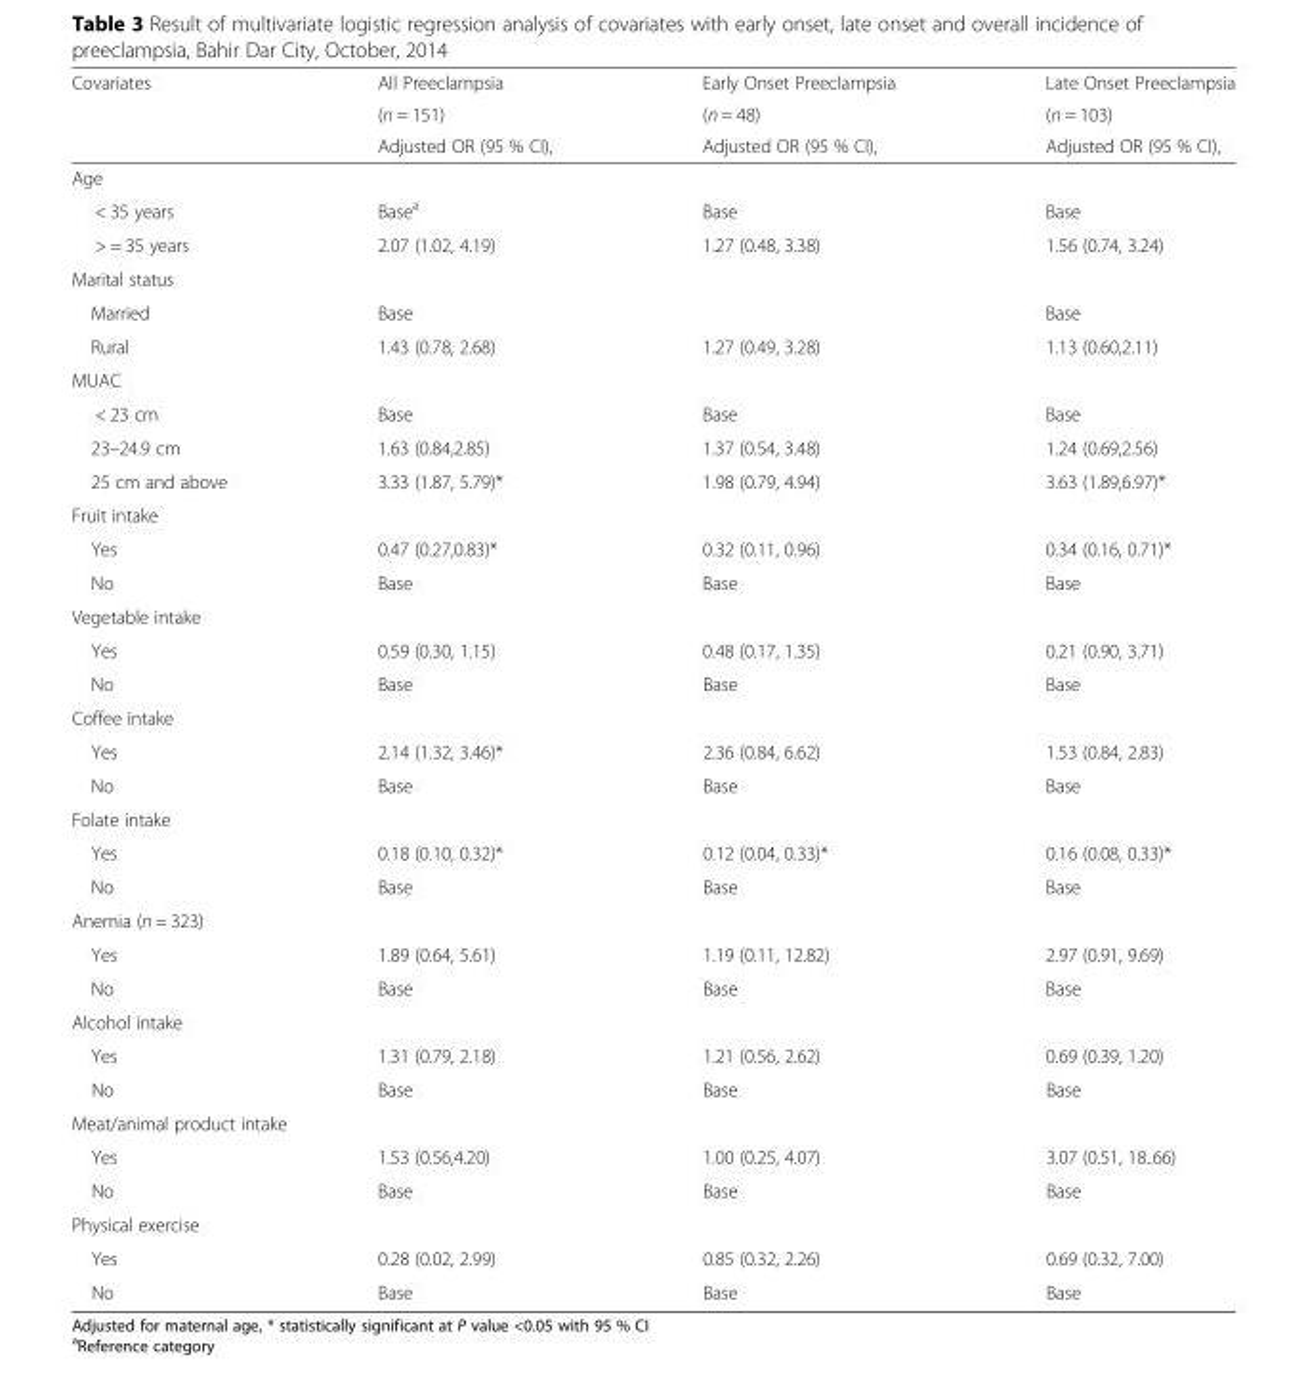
<table><thead><tr><td rowspan="3">Covariates</td><td rowspan="3">All Preeclampsia (n = 151) Adjusted OR (95 % CI),</td><td rowspan="3">Early Onset Preeclampsia (n = 48) Adjusted OR (95 % CI),</td><td rowspan="3">Late Onset Preeclampsia (n = 103) Adjusted OR (95 % CI),</td></tr><tr></tr><tr></tr></thead><tbody><tr><td colspan="4">Age</td></tr><tr><td>&lt; 35 years</td><td>Base<sup>a</sup></td><td>Base</td><td>Base</td></tr><tr><td>&gt; = 35 years</td><td>2.07 (1.02, 4.19)</td><td>1.27 (0.48, 3.38)</td><td>1.56 (0.74, 3.24)</td></tr><tr><td colspan="4">Marital status</td></tr><tr><td>Married</td><td>Base</td><td></td><td>Base</td></tr><tr><td>Rural</td><td>1.43 (0.78, 2.68)</td><td>1.27 (0.49, 3.28)</td><td>1.13 (0.60,2.11)</td></tr><tr><td colspan="4">MUAC</td></tr><tr><td>&lt; 23 cm</td><td>Base</td><td>Base</td><td>Base</td></tr><tr><td>23–24.9 cm</td><td>1.63 (0.84,2.85)</td><td>1.37 (0.54, 3.48)</td><td>1.24 (0.69,2.56)</td></tr><tr><td>25 cm and above</td><td>3.33 (1.87, 5.79)*</td><td>1.98 (0.79, 4.94)</td><td>3.63 (1.89,6.97)*</td></tr><tr><td colspan="4">Fruit intake</td></tr><tr><td>Yes</td><td>0.47 (0.27,0.83)*</td><td>0.32 (0.11, 0.96)</td><td>0.34 (0.16, 0.71)*</td></tr><tr><td>No</td><td>Base</td><td>Base</td><td>Base</td></tr><tr><td colspan="4">Vegetable intake</td></tr><tr><td>Yes</td><td>0.59 (0.30, 1.15)</td><td>0.48 (0.17, 1.35)</td><td>0.21 (0.90, 3.71)</td></tr><tr><td>No</td><td>Base</td><td>Base</td><td>Base</td></tr><tr><td colspan="4">Coffee intake</td></tr><tr><td>Yes</td><td>2.14 (1.32, 3.46)*</td><td>2.36 (0.84, 6.62)</td><td>1.53 (0.84, 2.83)</td></tr><tr><td>No</td><td>Base</td><td>Base</td><td>Base</td></tr><tr><td colspan="4">Folate intake</td></tr><tr><td>Yes</td><td>0.18 (0.10, 0.32)*</td><td>0.12 (0.04, 0.33)*</td><td>0.16 (0.08, 0.33)*</td></tr><tr><td>No</td><td>Base</td><td>Base</td><td>Base</td></tr><tr><td colspan="4">Anemia (n = 323)</td></tr><tr><td>Yes</td><td>1.89 (0.64, 5.61)</td><td>1.19 (0.11, 12.82)</td><td>2.97 (0.91, 9.69)</td></tr><tr><td>No</td><td>Base</td><td>Base</td><td>Base</td></tr><tr><td colspan="4">Alcohol intake</td></tr><tr><td>Yes</td><td>1.31 (0.79, 2.18)</td><td>1.21 (0.56, 2.62)</td><td>0.69 (0.39, 1.20)</td></tr><tr><td>No</td><td>Base</td><td>Base</td><td>Base</td></tr><tr><td colspan="4">Meat/animal product intake</td></tr><tr><td>Yes</td><td>1.53 (0.56,4.20)</td><td>1.00 (0.25, 4.07)</td><td>3.07 (0.51, 18..66)</td></tr><tr><td>No</td><td>Base</td><td>Base</td><td>Base</td></tr><tr><td colspan="4">Physical exercise</td></tr><tr><td>Yes</td><td>0.28 (0.02, 2.99)</td><td>0.85 (0.32, 2.26)</td><td>0.69 (0.32, 7.00)</td></tr><tr><td>No</td><td>Base</td><td>Base</td><td>Base</td></tr></tbody></table>